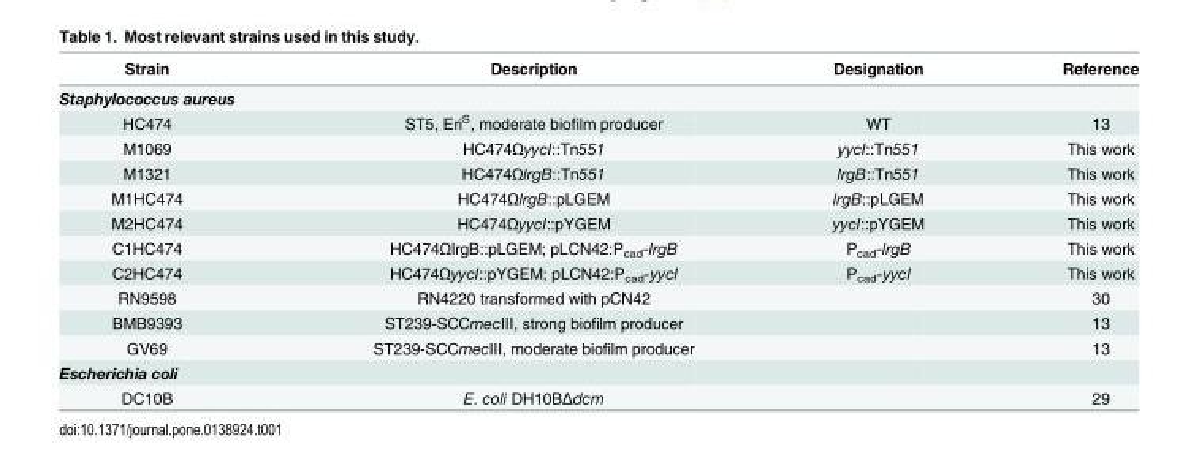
<table><thead><tr><td>Strain</td><td>Description</td><td>Designation</td><td>Reference</td></tr></thead><tbody><tr><td colspan="4">Staphylococcus aureus</td></tr><tr><td>HC474</td><td>ST5, Eri<sup>S</sup>, moderate biofilm producer</td><td>WT</td><td>13</td></tr><tr><td>M1069</td><td>HC474ΩyycI::Tn551</td><td>yycI::Tn551</td><td>This work</td></tr><tr><td>M1321</td><td>HC474ΩlrgB::Tn551</td><td>lrgB::Tn551</td><td>This work</td></tr><tr><td>M1HC474</td><td>HC474ΩlrgB::pLGEM</td><td>lrgB::pLGEM</td><td>This work</td></tr><tr><td>M2HC474</td><td>HC474ΩyycI::pYGEM</td><td>yycI::pYGEM</td><td>This work</td></tr><tr><td>C1HC474</td><td>HC474ΩlrgB::pLGEM; pLCN42:P<sub>cad</sub>-lrgB</td><td>P<sub>cad</sub>-lrgB</td><td>This work</td></tr><tr><td>C2HC474</td><td>HC474ΩyycI::pYGEM; pLCN42:P<sub>cad</sub>-yycI</td><td>P<sub>cad</sub>-yycI</td><td>This work</td></tr><tr><td>RN9598</td><td>RN4220 transformed with pCN42</td><td></td><td>30</td></tr><tr><td>BMB9393</td><td>ST239-SCCmecIII, strong biofilm producer</td><td></td><td>13</td></tr><tr><td>GV69</td><td>ST239-SCCmecIII, moderate biofilm producer</td><td></td><td>13</td></tr><tr><td colspan="4">Escherichia coli</td></tr><tr><td>DC10B</td><td>E. coli DH10BΔdcm</td><td></td><td>29</td></tr></tbody></table>